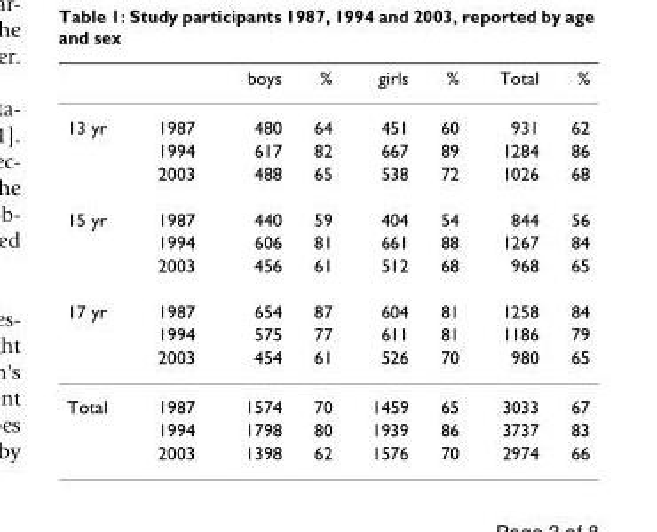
<table><thead><tr><td></td><td></td><td>boys</td><td>%</td><td>girls</td><td>%</td><td>Total</td><td>%</td></tr></thead><tbody><tr><td rowspan="3">13 yr</td><td>1987</td><td>480</td><td>64</td><td>451</td><td>60</td><td>931</td><td>62</td></tr><tr><td>1994</td><td>617</td><td>82</td><td>667</td><td>89</td><td>1284</td><td>86</td></tr><tr><td>2003</td><td>488</td><td>65</td><td>538</td><td>72</td><td>1026</td><td>68</td></tr><tr><td rowspan="3">15 yr</td><td>1987</td><td>440</td><td>59</td><td>404</td><td>54</td><td>844</td><td>56</td></tr><tr><td>1994</td><td>606</td><td>81</td><td>661</td><td>88</td><td>1267</td><td>84</td></tr><tr><td>2003</td><td>456</td><td>61</td><td>512</td><td>68</td><td>968</td><td>65</td></tr><tr><td rowspan="3">17 yr</td><td>1987</td><td>654</td><td>87</td><td>604</td><td>81</td><td>1258</td><td>84</td></tr><tr><td>1994</td><td>575</td><td>77</td><td>611</td><td>81</td><td>1186</td><td>79</td></tr><tr><td>2003</td><td>454</td><td>61</td><td>526</td><td>70</td><td>980</td><td>65</td></tr><tr><td rowspan="3">Total</td><td>1987</td><td>1574</td><td>70</td><td>1459</td><td>65</td><td>3033</td><td>67</td></tr><tr><td>1994</td><td>1798</td><td>80</td><td>1939</td><td>86</td><td>3737</td><td>83</td></tr><tr><td>2003</td><td>1398</td><td>62</td><td>1576</td><td>70</td><td>2974</td><td>66</td></tr></tbody></table>